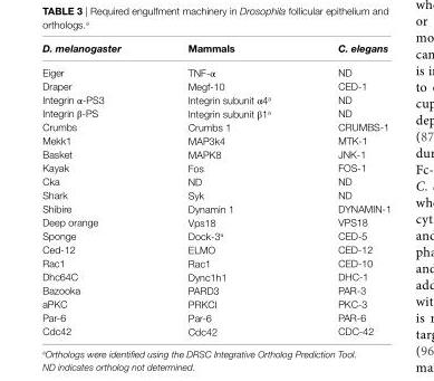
<table><thead><tr><td>D. melanogaster</td><td>Mammals</td><td>C. elegans</td></tr></thead><tbody><tr><td>Eiger Draper Integrin α-PS3 Integrin β-PS Crumbs Mekk1 Basket Kayak Cka Shark Shibire Deep orange Sponge Ced-12 Rac1 Dhc64C Bazooka aPKC Par-6 Cdc42</td><td>TNF-α Megf-10 Integrin subunit α4<sup>a</sup> Integrin subunit β1<sup>a</sup> Crumbs 1 MAP3k4 MAPK8 Fos ND Syk Dynamin 1 Vps18 Dock-3<sup>a</sup> ELMO Rac1 Dync1h1 PARD3 PRKCI Par-6 Cdc42</td><td>ND CED-1 ND ND CRUMBS-1 MTK-1 JNK-1 FOS-1 ND ND DYNAMIN-1 VPS18 CED-5 CED-12 CED-10 DHC-1 PAR-3 PKC-3 PAR-6 CDC-42</td></tr></tbody></table>